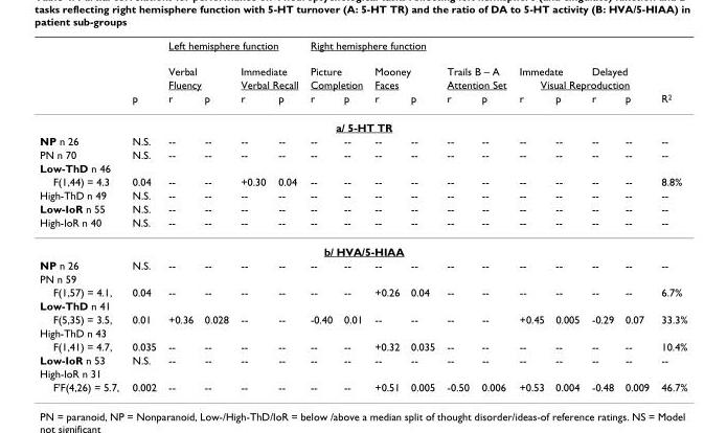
<table><thead><tr><td rowspan="4"></td><td rowspan="4">p</td><td colspan="4">Left hemisphere function</td><td colspan="11">Right hemisphere function</td></tr><tr><td rowspan="2" colspan="2">Verbal Fluency</td><td rowspan="2" colspan="2">Immediate Verbal Recall</td><td rowspan="2" colspan="2">Picture Completion</td><td rowspan="2" colspan="2">Mooney Faces</td><td rowspan="2" colspan="2">Trails B – A Attention Set</td><td colspan="2">Immedate</td><td colspan="2">Delayed</td><td rowspan="3">R<sup>2</sup></td></tr><tr><td colspan="4">Visual Reproduction</td></tr><tr><td>r</td><td>p</td><td>r</td><td>p</td><td>r</td><td>p</td><td>r</td><td>p</td><td>r</td><td>p</td><td>r</td><td>p</td><td>r</td><td>p</td></tr></thead><tbody><tr><td colspan="17">a/ 5-HT TR</td></tr><tr><td>NP n 26</td><td>N.S.</td><td>--</td><td>--</td><td>--</td><td>--</td><td>--</td><td>--</td><td>--</td><td>--</td><td>--</td><td>--</td><td>--</td><td>--</td><td>--</td><td>--</td><td>--</td></tr><tr><td>PN n 70</td><td>N.S.</td><td>--</td><td>--</td><td>--</td><td>--</td><td>--</td><td>--</td><td>--</td><td>--</td><td>--</td><td>--</td><td>--</td><td>--</td><td>--</td><td>--</td><td>--</td></tr><tr><td colspan="17">Low-ThD n 46</td></tr><tr><td>F(1,44) = 4.3</td><td>0.04</td><td>--</td><td>--</td><td>+0.30</td><td>0.04</td><td>--</td><td>--</td><td>--</td><td>--</td><td>--</td><td>--</td><td>--</td><td>--</td><td>--</td><td>--</td><td>8.8%</td></tr><tr><td>High-ThD n 49</td><td>N.S.</td><td>--</td><td>--</td><td>--</td><td>--</td><td>--</td><td>--</td><td>--</td><td>--</td><td>--</td><td>--</td><td>--</td><td>--</td><td>--</td><td>--</td><td>--</td></tr><tr><td>Low-IoR n 55</td><td>N.S.</td><td>--</td><td>--</td><td>--</td><td>--</td><td>--</td><td>--</td><td>--</td><td>--</td><td>--</td><td>--</td><td>--</td><td>--</td><td>--</td><td>--</td><td>--</td></tr><tr><td>High-IoR n 40</td><td>N.S.</td><td>--</td><td>--</td><td>--</td><td>--</td><td>--</td><td>--</td><td>--</td><td>--</td><td>--</td><td>--</td><td>--</td><td>--</td><td>--</td><td>--</td><td>--</td></tr><tr><td colspan="17">b/ HVA/5-HIAA</td></tr><tr><td>NP n 26</td><td>N.S.</td><td>--</td><td>--</td><td>--</td><td>--</td><td>--</td><td>--</td><td>--</td><td>--</td><td>--</td><td>--</td><td>--</td><td>--</td><td>--</td><td>--</td><td>--</td></tr><tr><td colspan="17">PN n 59</td></tr><tr><td>F(1,57) = 4.1,</td><td>0.04</td><td>--</td><td>--</td><td>--</td><td>--</td><td>--</td><td>--</td><td>+0.26</td><td>0.04</td><td>--</td><td>--</td><td>--</td><td>--</td><td>--</td><td>--</td><td>6.7%</td></tr><tr><td colspan="17">Low-ThD n 41</td></tr><tr><td>F(5,35) = 3.5,</td><td>0.01</td><td>+0.36</td><td>0.028</td><td>--</td><td>--</td><td>-0.40</td><td>0.01</td><td>--</td><td>--</td><td>--</td><td>--</td><td>+0.45</td><td>0.005</td><td>-0.29</td><td>0.07</td><td>33.3%</td></tr><tr><td colspan="17">High-ThD n 43</td></tr><tr><td>F(1,41) = 4.7,</td><td>0.035</td><td>--</td><td>--</td><td>--</td><td>--</td><td>--</td><td>--</td><td>+0.32</td><td>0.035</td><td>--</td><td>--</td><td>--</td><td>--</td><td>--</td><td>--</td><td>10.4%</td></tr><tr><td>Low-IoR n 53</td><td>N.S.</td><td>--</td><td>--</td><td>--</td><td>--</td><td>--</td><td>--</td><td>--</td><td>--</td><td>--</td><td>--</td><td>--</td><td>--</td><td>--</td><td>--</td><td>--</td></tr><tr><td colspan="17">High-IoR n 31</td></tr><tr><td>F&#x27;F(4,26) = 5.7,</td><td>0.002</td><td>--</td><td>--</td><td>--</td><td>--</td><td>--</td><td>--</td><td>+0.51</td><td>0.005</td><td>-0.50</td><td>0.006</td><td>+0.53</td><td>0.004</td><td>-0.48</td><td>0.009</td><td>46.7%</td></tr></tbody></table>